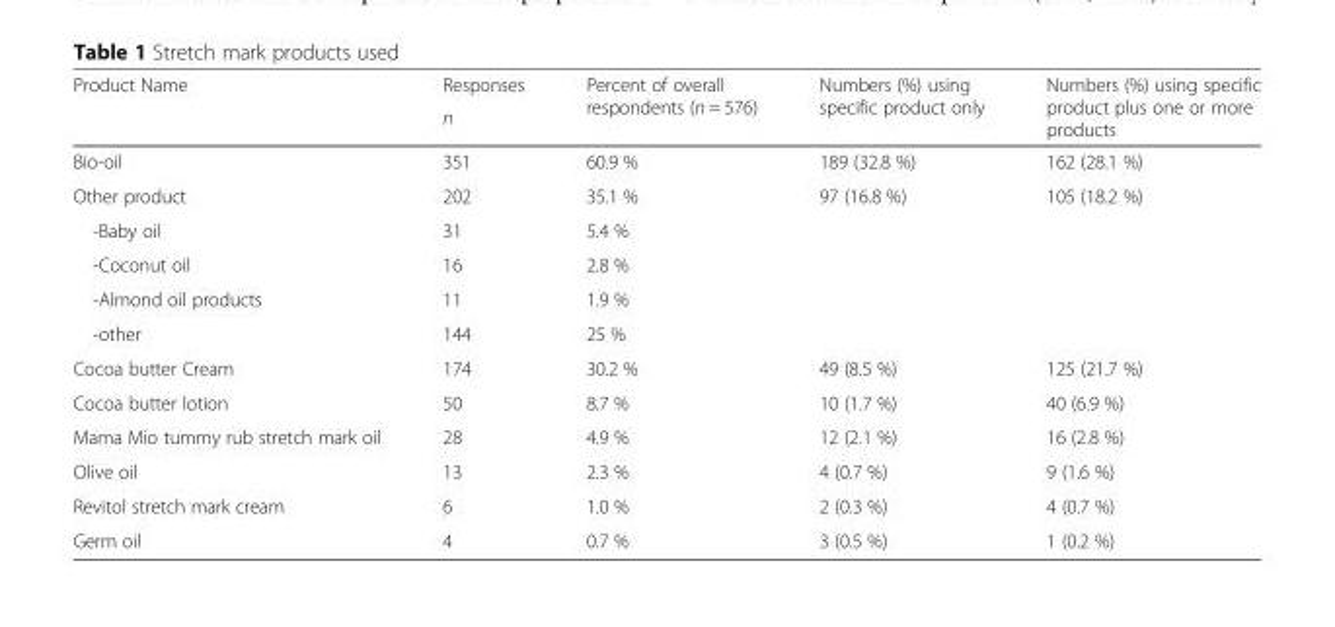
<table><thead><tr><td rowspan="2">Product Name</td><td rowspan="2">Responses n</td><td rowspan="2">Percent of overall respondents (n = 576)</td><td rowspan="2">Numbers (%) using specific product only</td><td rowspan="2">Numbers (%) using specific product plus one or more products</td></tr><tr></tr></thead><tbody><tr><td>Bio-oil</td><td>351</td><td>60.9 %</td><td>189 (32.8 %)</td><td>162 (28.1 %)</td></tr><tr><td>Other product</td><td>202</td><td>35.1 %</td><td rowspan="5">97 (16.8 %)</td><td rowspan="5">105 (18.2 %)</td></tr><tr><td>-Baby oil</td><td>31</td><td>5.4 %</td></tr><tr><td>-Coconut oil</td><td>16</td><td>2.8 %</td></tr><tr><td>-Almond oil products</td><td>11</td><td>1.9 %</td></tr><tr><td>-other</td><td>144</td><td>25 %</td></tr><tr><td>Cocoa butter Cream</td><td>174</td><td>30.2 %</td><td>49 (8.5 %)</td><td>125 (21.7 %)</td></tr><tr><td>Cocoa butter lotion</td><td>50</td><td>8.7 %</td><td>10 (1.7 %)</td><td>40 (6.9 %)</td></tr><tr><td>Mama Mio tummy rub stretch mark oil</td><td>28</td><td>4.9 %</td><td>12 (2.1 %)</td><td>16 (2.8 %)</td></tr><tr><td>Olive oil</td><td>13</td><td>2.3 %</td><td>4 (0.7 %)</td><td>9 (1.6 %)</td></tr><tr><td>Revitol stretch mark cream</td><td>6</td><td>1.0 %</td><td>2 (0.3 %)</td><td>4 (0.7 %)</td></tr><tr><td>Germ oil</td><td>4</td><td>0.7 %</td><td>3 (0.5 %)</td><td>1 (0.2 %)</td></tr></tbody></table>